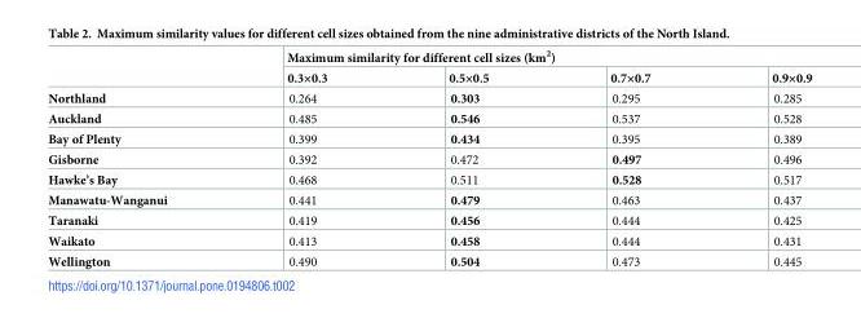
<table><thead><tr><td rowspan="2"></td><td colspan="4">Maximum similarity for different cell sizes (km<sup>2</sup>)</td></tr><tr><td>0.3×0.3</td><td>0.5×0.5</td><td>0.7×0.7</td><td>0.9×0.9</td></tr></thead><tbody><tr><td>Northland</td><td>0.264</td><td>0.303</td><td>0.295</td><td>0.285</td></tr><tr><td>Auckland</td><td>0.485</td><td>0.546</td><td>0.537</td><td>0.528</td></tr><tr><td>Bay of Plenty</td><td>0.399</td><td>0.434</td><td>0.395</td><td>0.389</td></tr><tr><td>Gisborne</td><td>0.392</td><td>0.472</td><td>0.497</td><td>0.496</td></tr><tr><td>Hawke’s Bay</td><td>0.468</td><td>0.511</td><td>0.528</td><td>0.517</td></tr><tr><td>Manawatu-Wanganui</td><td>0.441</td><td>0.479</td><td>0.463</td><td>0.437</td></tr><tr><td>Taranaki</td><td>0.419</td><td>0.456</td><td>0.444</td><td>0.425</td></tr><tr><td>Waikato</td><td>0.413</td><td>0.458</td><td>0.444</td><td>0.431</td></tr><tr><td>Wellington</td><td>0.490</td><td>0.504</td><td>0.473</td><td>0.445</td></tr></tbody></table>